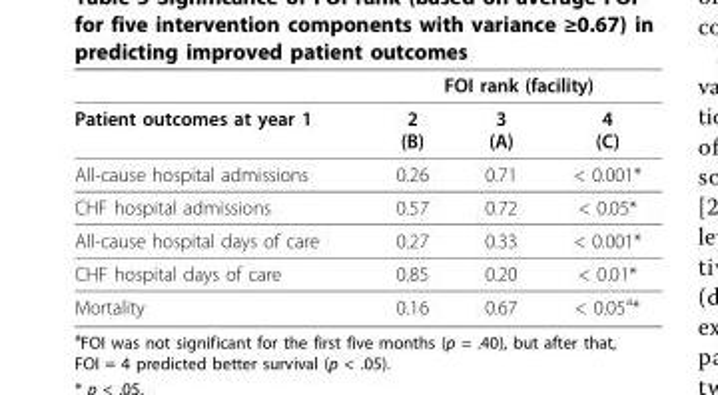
<table><thead><tr><td rowspan="2">Patient outcomes at year 1</td><td colspan="3">FOI rank (facility)</td></tr><tr><td>2 (B)</td><td>3 (A)</td><td>4 (C)</td></tr></thead><tbody><tr><td>All-cause hospital admissions</td><td>0.26</td><td>0.71</td><td>&lt; 0.001*</td></tr><tr><td>CHF hospital admissions</td><td>0.57</td><td>0.72</td><td>&lt; 0.05*</td></tr><tr><td>All-cause hospital days of care</td><td>0.27</td><td>0.33</td><td>&lt; 0.001*</td></tr><tr><td>CHF hospital days of care</td><td>0.85</td><td>0.20</td><td>&lt; 0.01*</td></tr><tr><td>Mortality</td><td>0.16</td><td>0.67</td><td>&lt; 0.05<sup>a</sup>*</td></tr></tbody></table>